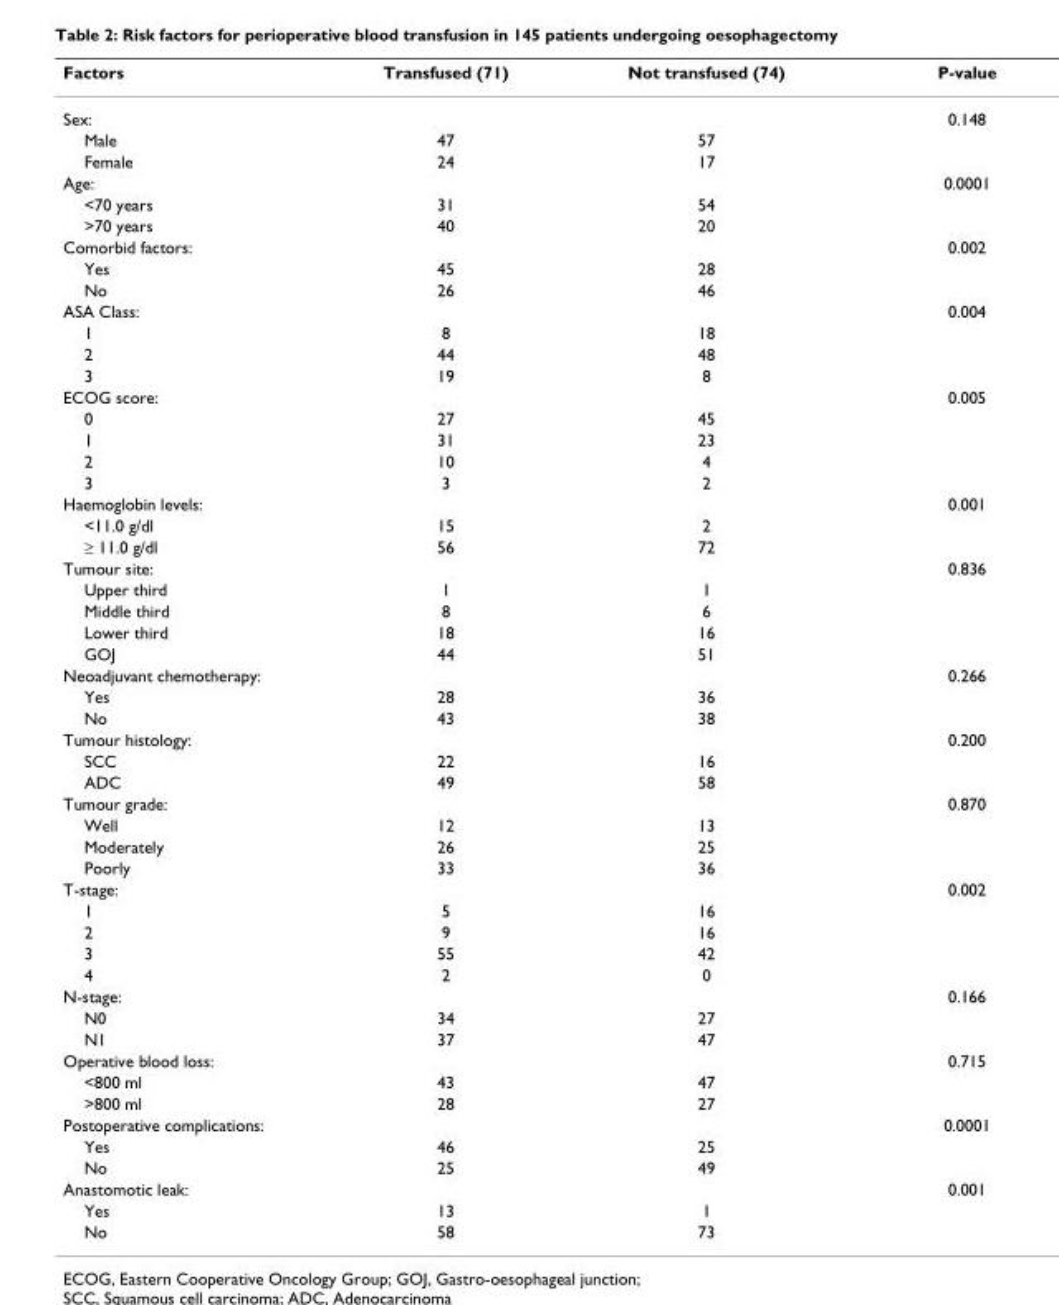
<table><thead><tr><td>Factors</td><td>Transfused (71)</td><td>Not transfused (74)</td><td>P-value</td></tr></thead><tbody><tr><td>Sex:</td><td></td><td></td><td>0.148</td></tr><tr><td>Male</td><td>47</td><td>57</td><td></td></tr><tr><td>Female</td><td>24</td><td>17</td><td></td></tr><tr><td>Age:</td><td></td><td></td><td>0.0001</td></tr><tr><td>&lt;70 years</td><td>31</td><td>54</td><td></td></tr><tr><td>&gt;70 years</td><td>40</td><td>20</td><td></td></tr><tr><td>Comorbid factors:</td><td></td><td></td><td>0.002</td></tr><tr><td>Yes</td><td>45</td><td>28</td><td></td></tr><tr><td>No</td><td>26</td><td>46</td><td></td></tr><tr><td>ASA Class:</td><td></td><td></td><td>0.004</td></tr><tr><td>1</td><td>8</td><td>18</td><td></td></tr><tr><td>2</td><td>44</td><td>48</td><td></td></tr><tr><td>3</td><td>19</td><td>8</td><td></td></tr><tr><td>ECOG score:</td><td></td><td></td><td>0.005</td></tr><tr><td>0</td><td>27</td><td>45</td><td></td></tr><tr><td>1</td><td>31</td><td>23</td><td></td></tr><tr><td>2</td><td>10</td><td>4</td><td></td></tr><tr><td>3</td><td>3</td><td>2</td><td></td></tr><tr><td>Haemoglobin levels:</td><td></td><td></td><td>0.001</td></tr><tr><td>&lt;11.0 g/dl</td><td>15</td><td>2</td><td></td></tr><tr><td>≥ 11.0 g/dl</td><td>56</td><td>72</td><td></td></tr><tr><td>Tumour site:</td><td></td><td></td><td>0.836</td></tr><tr><td>Upper third</td><td>1</td><td>1</td><td></td></tr><tr><td>Middle third</td><td>8</td><td>6</td><td></td></tr><tr><td>Lower third</td><td>18</td><td>16</td><td></td></tr><tr><td>GOJ</td><td>44</td><td>51</td><td></td></tr><tr><td>Neoadjuvant chemotherapy:</td><td></td><td></td><td>0.266</td></tr><tr><td>Yes</td><td>28</td><td>36</td><td></td></tr><tr><td>No</td><td>43</td><td>38</td><td></td></tr><tr><td>Tumour histology:</td><td></td><td></td><td>0.200</td></tr><tr><td>SCC</td><td>22</td><td>16</td><td></td></tr><tr><td>ADC</td><td>49</td><td>58</td><td></td></tr><tr><td>Tumour grade:</td><td></td><td></td><td>0.870</td></tr><tr><td>Well</td><td>12</td><td>13</td><td></td></tr><tr><td>Moderately</td><td>26</td><td>25</td><td></td></tr><tr><td>Poorly</td><td>33</td><td>36</td><td></td></tr><tr><td>T-stage:</td><td></td><td></td><td>0.002</td></tr><tr><td>1</td><td>5</td><td>16</td><td></td></tr><tr><td>2</td><td>9</td><td>16</td><td></td></tr><tr><td>3</td><td>55</td><td>42</td><td></td></tr><tr><td>4</td><td>2</td><td>0</td><td></td></tr><tr><td>N-stage:</td><td></td><td></td><td>0.166</td></tr><tr><td>N0</td><td>34</td><td>27</td><td></td></tr><tr><td>N1</td><td>37</td><td>47</td><td></td></tr><tr><td>Operative blood loss:</td><td></td><td></td><td>0.715</td></tr><tr><td>&lt;800 ml</td><td>43</td><td>47</td><td></td></tr><tr><td>&gt;800 ml</td><td>28</td><td>27</td><td></td></tr><tr><td>Postoperative complications:</td><td></td><td></td><td>0.0001</td></tr><tr><td>Yes</td><td>46</td><td>25</td><td></td></tr><tr><td>No</td><td>25</td><td>49</td><td></td></tr><tr><td>Anastomotic leak:</td><td></td><td></td><td>0.001</td></tr><tr><td>Yes</td><td>13</td><td>1</td><td></td></tr><tr><td>No</td><td>58</td><td>73</td><td></td></tr></tbody></table>